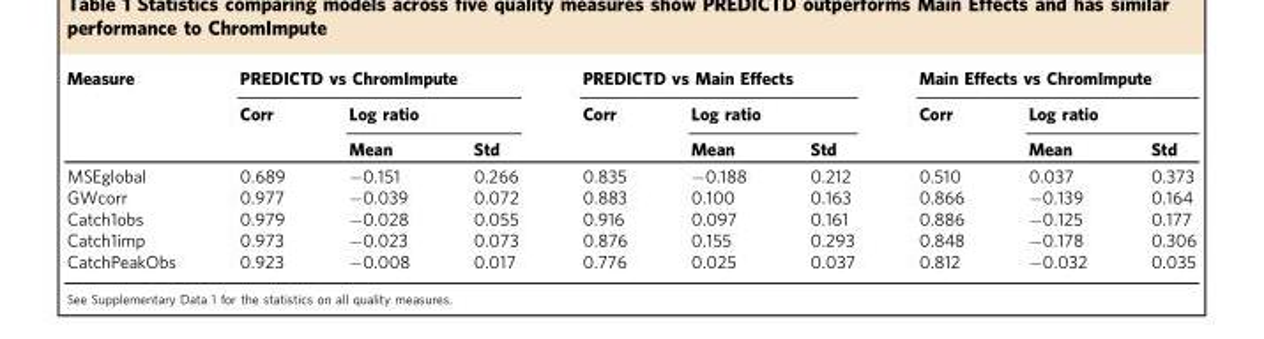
<table><thead><tr><td rowspan="3">Measure</td><td colspan="3">PREDICTD vs ChromImpute</td><td colspan="3">PREDICTD vs Main Effects</td><td colspan="3">Main Effects vs ChromImpute</td></tr><tr><td rowspan="2">Corr</td><td colspan="2">Log ratio</td><td rowspan="2">Corr</td><td colspan="2">Log ratio</td><td rowspan="2">Corr</td><td colspan="2">Log ratio</td></tr><tr><td>Mean</td><td>Std</td><td>Mean</td><td>Std</td><td>Mean</td><td>Std</td></tr></thead><tbody><tr><td>MSEglobal</td><td>0.689</td><td>−0.151</td><td>0.266</td><td>0.835</td><td>−0.188</td><td>0.212</td><td>0.510</td><td>0.037</td><td>0.373</td></tr><tr><td>GWcorr</td><td>0.977</td><td>−0.039</td><td>0.072</td><td>0.883</td><td>0.100</td><td>0.163</td><td>0.866</td><td>−0.139</td><td>0.164</td></tr><tr><td>Catch1obs</td><td>0.979</td><td>−0.028</td><td>0.055</td><td>0.916</td><td>0.097</td><td>0.161</td><td>0.886</td><td>−0.125</td><td>0.177</td></tr><tr><td>Catch1imp</td><td>0.973</td><td>−0.023</td><td>0.073</td><td>0.876</td><td>0.155</td><td>0.293</td><td>0.848</td><td>−0.178</td><td>0.306</td></tr><tr><td>CatchPeakObs</td><td>0.923</td><td>−0.008</td><td>0.017</td><td>0.776</td><td>0.025</td><td>0.037</td><td>0.812</td><td>−0.032</td><td>0.035</td></tr></tbody></table>